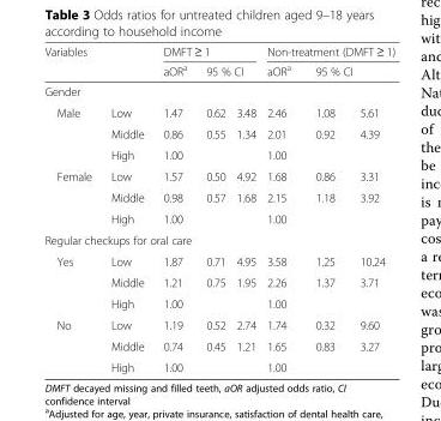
<table><thead><tr><td rowspan="2" colspan="2">Variables</td><td colspan="3">DMFT ≥ 1</td><td colspan="3">Non-treatment (DMFT ≥ 1)</td></tr><tr><td rowspan="2">aOR<sup>a</sup></td><td colspan="2">95 % CI</td><td rowspan="2">aOR<sup>a</sup></td><td colspan="2">95 % CI</td></tr><tr><td>Gender</td><td></td><td></td><td></td><td></td><td></td></tr></thead><tbody><tr><td rowspan="3">Male</td><td>Low</td><td>1.47</td><td>0.62</td><td>3.48</td><td>2.46</td><td>1.08</td><td>5.61</td></tr><tr><td>Middle</td><td>0.86</td><td>0.55</td><td>1.34</td><td>2.01</td><td>0.92</td><td>4.39</td></tr><tr><td>High</td><td>1.00</td><td></td><td></td><td>1.00</td><td></td><td></td></tr><tr><td rowspan="3">Female</td><td>Low</td><td>1.57</td><td>0.50</td><td>4.92</td><td>1.68</td><td>0.86</td><td>3.31</td></tr><tr><td>Middle</td><td>0.98</td><td>0.57</td><td>1.68</td><td>2.15</td><td>1.18</td><td>3.92</td></tr><tr><td>High</td><td>1.00</td><td></td><td></td><td>1.00</td><td></td><td></td></tr><tr><td colspan="8">Regular checkups for oral care</td></tr><tr><td rowspan="3">Yes</td><td>Low</td><td>1.87</td><td>0.71</td><td>4.95</td><td>3.58</td><td>1.25</td><td>10.24</td></tr><tr><td>Middle</td><td>1.21</td><td>0.75</td><td>1.95</td><td>2.26</td><td>1.37</td><td>3.71</td></tr><tr><td>High</td><td>1.00</td><td></td><td></td><td>1.00</td><td></td><td></td></tr><tr><td rowspan="3">No</td><td>Low</td><td>1.19</td><td>0.52</td><td>2.74</td><td>1.74</td><td>0.32</td><td>9.60</td></tr><tr><td>Middle</td><td>0.74</td><td>0.45</td><td>1.21</td><td>1.65</td><td>0.83</td><td>3.27</td></tr><tr><td>High</td><td>1.00</td><td></td><td></td><td>1.00</td><td></td><td></td></tr></tbody></table>